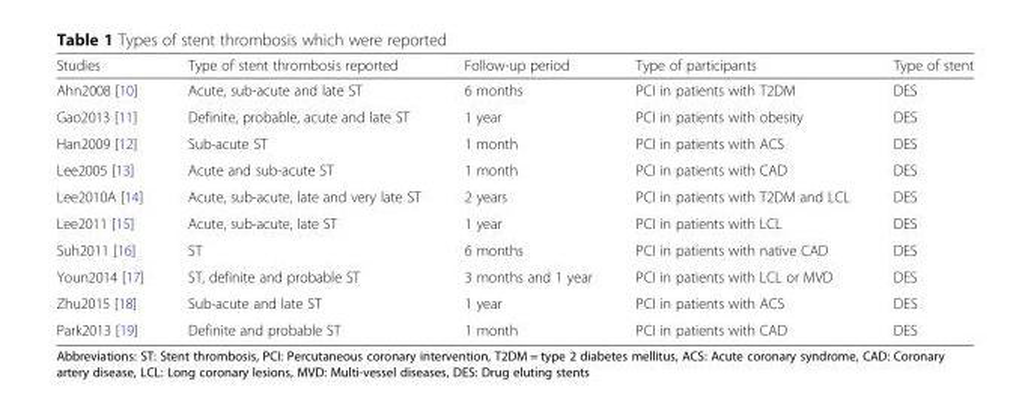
<table><thead><tr><td>Studies</td><td>Type of stent thrombosis reported</td><td>Follow-up period</td><td>Type of participants</td><td>Type of stent</td></tr></thead><tbody><tr><td>Ahn2008 [10]</td><td>Acute, sub-acute and late ST</td><td>6 months</td><td>PCI in patients with T2DM</td><td>DES</td></tr><tr><td>Gao2013 [11]</td><td>Definite, probable, acute and late ST</td><td>1 year</td><td>PCI in patients with obesity</td><td>DES</td></tr><tr><td>Han2009 [12]</td><td>Sub-acute ST</td><td>1 month</td><td>PCI in patients with ACS</td><td>DES</td></tr><tr><td>Lee2005 [13]</td><td>Acute and sub-acute ST</td><td>1 month</td><td>PCI in patients with CAD</td><td>DES</td></tr><tr><td>Lee2010A [14]</td><td>Acute, sub-acute, late and very late ST</td><td>2 years</td><td>PCI in patients with T2DM and LCL</td><td>DES</td></tr><tr><td>Lee2011 [15]</td><td>Acute, sub-acute, late ST</td><td>1 year</td><td>PCI in patients with LCL</td><td>DES</td></tr><tr><td>Suh2011 [16]</td><td>ST</td><td>6 months</td><td>PCI in patients with native CAD</td><td>DES</td></tr><tr><td>Youn2014 [17]</td><td>ST, definite and probable ST</td><td>3 months and 1 year</td><td>PCI in patients with LCL or MVD</td><td>DES</td></tr><tr><td>Zhu2015 [18]</td><td>Sub-acute and late ST</td><td>1 year</td><td>PCI in patients with ACS</td><td>DES</td></tr><tr><td>Park2013 [19]</td><td>Definite and probable ST</td><td>1 month</td><td>PCI in patients with CAD</td><td>DES</td></tr></tbody></table>